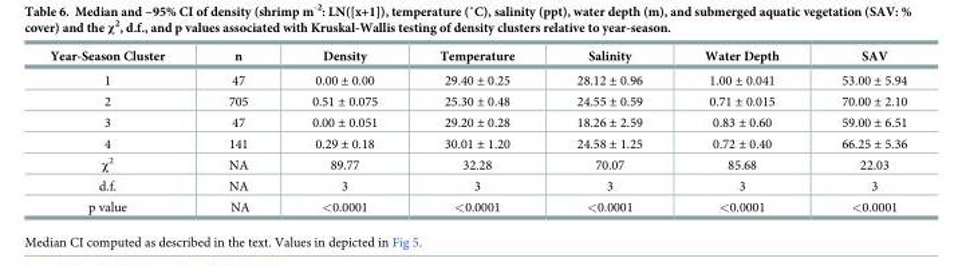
<table><thead><tr><td>Year-Season Cluster</td><td>n</td><td>Density</td><td>Temperature</td><td>Salinity</td><td>Water Depth</td><td>SAV</td></tr></thead><tbody><tr><td>1</td><td>47</td><td>0.00 ± 0.00</td><td>29.40 ± 0.25</td><td>28.12 ± 0.96</td><td>1.00 ± 0.041</td><td>53.00 ± 5.94</td></tr><tr><td>2</td><td>705</td><td>0.51 ± 0.075</td><td>25.30 ± 0.48</td><td>24.55 ± 0.59</td><td>0.71 ± 0.015</td><td>70.00 ± 2.10</td></tr><tr><td>3</td><td>47</td><td>0.00 ± 0.051</td><td>29.20 ± 0.28</td><td>18.26 ± 2.59</td><td>0.83 ± 0.60</td><td>59.00 ± 6.51</td></tr><tr><td>4</td><td>141</td><td>0.29 ± 0.18</td><td>30.01 ± 1.20</td><td>24.58 ± 1.25</td><td>0.72 ± 0.40</td><td>66.25 ± 5.36</td></tr><tr><td>χ<sup>2</sup></td><td>NA</td><td>89.77</td><td>32.28</td><td>70.07</td><td>85.68</td><td>22.03</td></tr><tr><td>d.f.</td><td>NA</td><td>3</td><td>3</td><td>3</td><td>3</td><td>3</td></tr><tr><td>p value</td><td>NA</td><td>&lt;0.0001</td><td>&lt;0.0001</td><td>&lt;0.0001</td><td>&lt;0.0001</td><td>&lt;0.0001</td></tr></tbody></table>